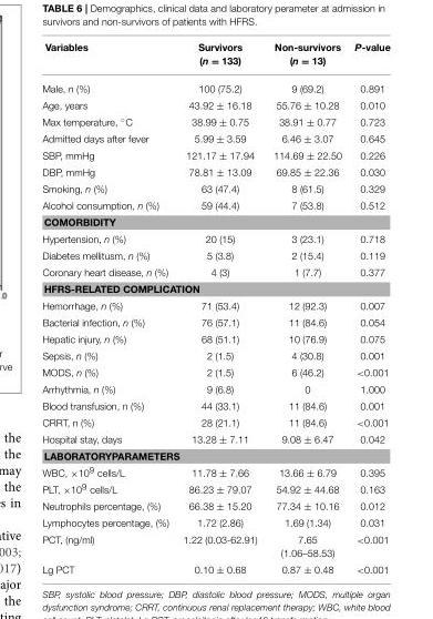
<table><thead><tr><td>Variables</td><td>Survivors (n = 133)</td><td>Non-survivors (n = 13)</td><td>P-value</td></tr></thead><tbody><tr><td>Male, n (%)</td><td>100 (75.2)</td><td>9 (69.2)</td><td>0.891</td></tr><tr><td>Age, years</td><td>43.92 ± 16.18</td><td>55.76 ± 10.28</td><td>0.010</td></tr><tr><td>Max temperature, ◦C</td><td>38.99 ± 0.75</td><td>38.91 ± 0.77</td><td>0.723</td></tr><tr><td>Admitted days after fever</td><td>5.99 ± 3.59</td><td>6.46 ± 3.07</td><td>0.645</td></tr><tr><td>SBP, mmHg</td><td>121.17 ± 17.94</td><td>114.69 ± 22.50</td><td>0.226</td></tr><tr><td>DBP, mmHg</td><td>78.81 ± 13.09</td><td>69.85 ± 22.36</td><td>0.030</td></tr><tr><td>Smoking, n (%)</td><td>63 (47.4)</td><td>8 (61.5)</td><td>0.329</td></tr><tr><td>Alcohol consumption, n (%)</td><td>59 (44.4)</td><td>7 (53.8)</td><td>0.512</td></tr><tr><td colspan="4">COMORBIDITY</td></tr><tr><td>Hypertension, n (%)</td><td>20 (15)</td><td>3 (23.1)</td><td>0.718</td></tr><tr><td>Diabetes mellitusm, n (%)</td><td>5 (3.8)</td><td>2 (15.4)</td><td>0.119</td></tr><tr><td>Coronary heart disease, n (%)</td><td>4 (3)</td><td>1 (7.7)</td><td>0.377</td></tr><tr><td colspan="4">HFRS-RELATED COMPLICATION</td></tr><tr><td>Hemorrhage, n (%)</td><td>71 (53.4)</td><td>12 (92.3)</td><td>0.007</td></tr><tr><td>Bacterial infection, n (%)</td><td>76 (57.1)</td><td>11 (84.6)</td><td>0.054</td></tr><tr><td>Hepatic injury, n (%)</td><td>68 (51.1)</td><td>10 (76.9)</td><td>0.075</td></tr><tr><td>Sepsis, n (%)</td><td>2 (1.5)</td><td>4 (30.8)</td><td>0.001</td></tr><tr><td>MODS, n (%)</td><td>2 (1.5)</td><td>6 (46.2)</td><td>&lt;0.001</td></tr><tr><td>Arrhythmia, n (%)</td><td>9 (6.8)</td><td>0</td><td>1.000</td></tr><tr><td>Blood transfusion, n (%)</td><td>44 (33.1)</td><td>11 (84.6)</td><td>0.001</td></tr><tr><td>CRRT, n (%)</td><td>28 (21.1)</td><td>11 (84.6)</td><td>&lt;0.001</td></tr><tr><td>Hospital stay, days</td><td>13.28 ± 7.11</td><td>9.08 ± 6.47</td><td>0.042</td></tr><tr><td colspan="4">LABORATORYPARAMETERS</td></tr><tr><td>WBC, ×10<sup>9</sup> cells/L</td><td>11.78 ± 7.66</td><td>13.66 ± 6.79</td><td>0.395</td></tr><tr><td>PLT, ×10<sup>9</sup> cells/L</td><td>86.23 ± 79.07</td><td>54.92 ± 44.68</td><td>0.163</td></tr><tr><td>Neutrophils percentage, (%)</td><td>66.38 ± 15.20</td><td>77.34 ± 10.16</td><td>0.012</td></tr><tr><td>Lymphocytes percentage, (%)</td><td>1.72 (2.86)</td><td>1.69 (1.34)</td><td>0.031</td></tr><tr><td>PCT, (ng/ml)</td><td>1.22 (0.03-62.91)</td><td>7.65 (1.06–58.53)</td><td>&lt;0.001</td></tr><tr><td>Lg PCT</td><td>0.10 ± 0.68</td><td>0.87 ± 0.48</td><td>&lt;0.001</td></tr></tbody></table>